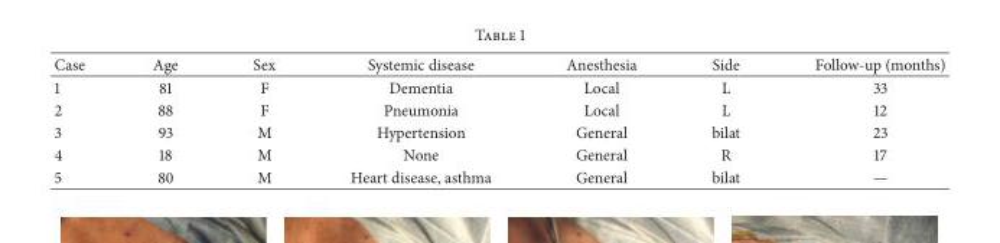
<table><thead><tr><td>Case</td><td>Age</td><td>Sex</td><td>Systemic disease</td><td>Anesthesia</td><td>Side</td><td>Follow-up (months)</td></tr></thead><tbody><tr><td>1</td><td>81</td><td>F</td><td>Dementia</td><td>Local</td><td>L</td><td>33</td></tr><tr><td>2</td><td>88</td><td>F</td><td>Pneumonia</td><td>Local</td><td>L</td><td>12</td></tr><tr><td>3</td><td>93</td><td>M</td><td>Hypertension</td><td>General</td><td>bilat</td><td>23</td></tr><tr><td>4</td><td>18</td><td>M</td><td>None</td><td>General</td><td>R</td><td>17</td></tr><tr><td>5</td><td>80</td><td>M</td><td>Heart disease, asthma</td><td>General</td><td>bilat</td><td>—</td></tr></tbody></table>